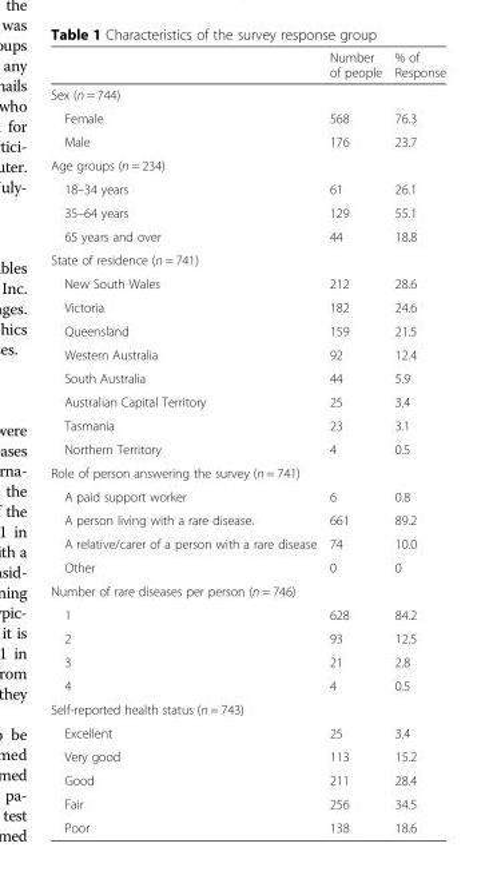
<table><thead><tr><td></td><td>Number of people</td><td>% of Response</td></tr></thead><tbody><tr><td colspan="3">Sex (n = 744)</td></tr><tr><td>Female</td><td>568</td><td>76.3</td></tr><tr><td>Male</td><td>176</td><td>23.7</td></tr><tr><td colspan="3">Age groups (n = 234)</td></tr><tr><td>18–34 years</td><td>61</td><td>26.1</td></tr><tr><td>35–64 years</td><td>129</td><td>55.1</td></tr><tr><td>65 years and over</td><td>44</td><td>18.8</td></tr><tr><td colspan="3">State of residence (n = 741)</td></tr><tr><td>New South Wales</td><td>212</td><td>28.6</td></tr><tr><td>Victoria</td><td>182</td><td>24.6</td></tr><tr><td>Queensland</td><td>159</td><td>21.5</td></tr><tr><td>Western Australia</td><td>92</td><td>12.4</td></tr><tr><td>South Australia</td><td>44</td><td>5.9</td></tr><tr><td>Australian Capital Territory</td><td>25</td><td>3.4</td></tr><tr><td>Tasmania</td><td>23</td><td>3.1</td></tr><tr><td>Northern Territory</td><td>4</td><td>0.5</td></tr><tr><td colspan="3">Role of person answering the survey (n = 741)</td></tr><tr><td>A paid support worker</td><td>6</td><td>0.8</td></tr><tr><td>A person living with a rare disease.</td><td>661</td><td>89.2</td></tr><tr><td>A relative/carer of a person with a rare disease</td><td>74</td><td>10.0</td></tr><tr><td>Other</td><td>0</td><td>0</td></tr><tr><td colspan="3">Number of rare diseases per person (n = 746)</td></tr><tr><td>1</td><td>628</td><td>84.2</td></tr><tr><td>2</td><td>93</td><td>12.5</td></tr><tr><td>3</td><td>21</td><td>2.8</td></tr><tr><td>4</td><td>4</td><td>0.5</td></tr><tr><td colspan="3">Self-reported health status (n = 743)</td></tr><tr><td>Excellent</td><td>25</td><td>3.4</td></tr><tr><td>Very good</td><td>113</td><td>15.2</td></tr><tr><td>Good</td><td>211</td><td>28.4</td></tr><tr><td>Fair</td><td>256</td><td>34.5</td></tr><tr><td>Poor</td><td>138</td><td>18.6</td></tr></tbody></table>